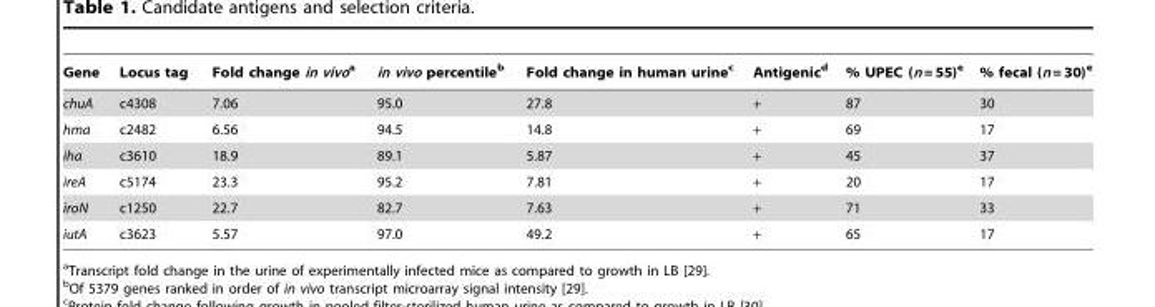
<table><thead><tr><td>Gene</td><td>Locus tag</td><td>Fold change in vivoa</td><td>in vivo percentile<sup>b</sup></td><td>Fold change in human urine<sup>c</sup></td><td>Antigenic<sup>d</sup></td><td>% UPEC (n = 55)<sup>e</sup></td><td>% fecal (n = 30)<sup>e</sup></td></tr></thead><tbody><tr><td>chuA</td><td>c4308</td><td>7.06</td><td>95.0</td><td>27.8</td><td>+</td><td>87</td><td>30</td></tr><tr><td>hma</td><td>c2482</td><td>6.56</td><td>94.5</td><td>14.8</td><td>+</td><td>69</td><td>17</td></tr><tr><td>iha</td><td>c3610</td><td>18.9</td><td>89.1</td><td>5.87</td><td>+</td><td>45</td><td>37</td></tr><tr><td>ireA</td><td>c5174</td><td>23.3</td><td>95.2</td><td>7.81</td><td>+</td><td>20</td><td>17</td></tr><tr><td>iroN</td><td>c1250</td><td>22.7</td><td>82.7</td><td>7.63</td><td>+</td><td>71</td><td>33</td></tr><tr><td>iutA</td><td>c3623</td><td>5.57</td><td>97.0</td><td>49.2</td><td>+</td><td>65</td><td>17</td></tr></tbody></table>